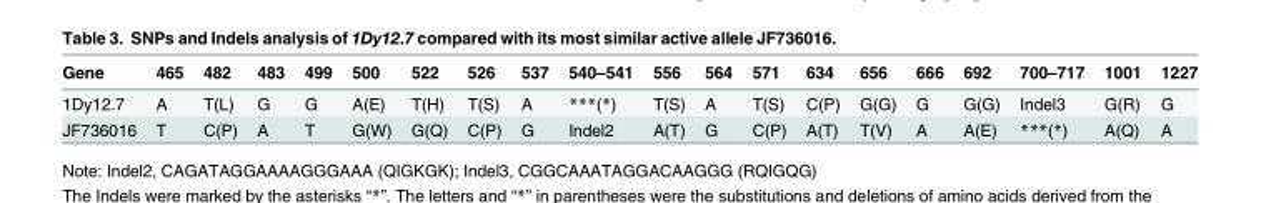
<table><thead><tr><td>Gene</td><td>465</td><td>482</td><td>483</td><td>499</td><td>500</td><td>522</td><td>526</td><td>537</td><td>540–541</td><td>556</td><td>564</td><td>571</td><td>634</td><td>656</td><td>666</td><td>692</td><td>700–717</td><td>1001</td><td>1227</td></tr></thead><tbody><tr><td>1Dy12.7</td><td>A</td><td>T(L)</td><td>G</td><td>G</td><td>A(E)</td><td>T(H)</td><td>T(S)</td><td>A</td><td>***(*)</td><td>T(S)</td><td>A</td><td>T(S)</td><td>C(P)</td><td>G(G)</td><td>G</td><td>G(G)</td><td>Indel3</td><td>G(R)</td><td>G</td></tr><tr><td>JF736016</td><td>T</td><td>C(P)</td><td>A</td><td>T</td><td>G(W)</td><td>G(Q)</td><td>C(P)</td><td>G</td><td>Indel2</td><td>A(T)</td><td>G</td><td>C(P)</td><td>A(T)</td><td>T(V)</td><td>A</td><td>A(E)</td><td>***(*)</td><td>A(Q)</td><td>A</td></tr></tbody></table>